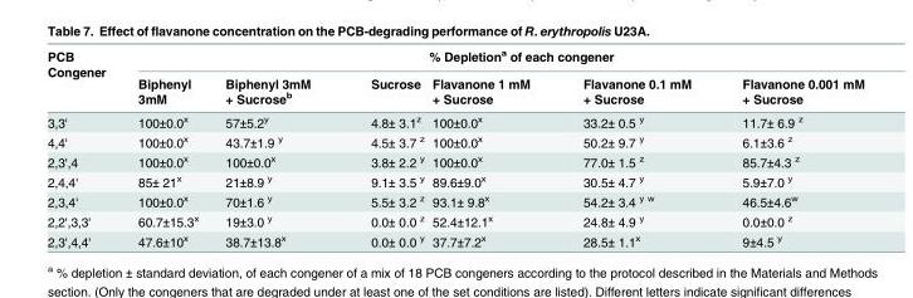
<table><thead><tr><td rowspan="2">PCB Congener</td><td colspan="6">% Depletion<sup>a</sup> of each congener</td></tr><tr><td>Biphenyl 3mM</td><td>Biphenyl 3mM + Sucrose<sup>b</sup></td><td>Sucrose</td><td>Flavanone 1 mM + Sucrose</td><td>Flavanone 0.1 mM + Sucrose</td><td>Flavanone 0.001 mM + Sucrose</td></tr></thead><tbody><tr><td>3,3&#x27;</td><td>100±0.0<sup>x</sup></td><td>57±5.2<sup>y</sup></td><td>4.8± 3.1<sup>z</sup></td><td>100±0.0<sup>x</sup></td><td>33.2± 0.5 <sup>y</sup></td><td>11.7± 6.9 <sup>z</sup></td></tr><tr><td>4,4&#x27;</td><td>100±0.0<sup>x</sup></td><td>43.7±1.9 <sup>y</sup></td><td>4.5± 3.7 <sup>z</sup></td><td>100±0.0<sup>x</sup></td><td>50.2± 9.7 <sup>y</sup></td><td>6.1±3.6 <sup>z</sup></td></tr><tr><td>2,3&#x27;,4</td><td>100±0.0<sup>x</sup></td><td>100±0.0<sup>x</sup></td><td>3.8± 2.2 <sup>y</sup></td><td>100±0.0<sup>x</sup></td><td>77.0± 1.5 <sup>z</sup></td><td>85.7±4.3 <sup>z</sup></td></tr><tr><td>2,4,4&#x27;</td><td>85± 21<sup>x</sup></td><td>21±8.9 <sup>y</sup></td><td>9.1± 3.5 <sup>y</sup></td><td>89.6±9.0<sup>x</sup></td><td>30.5± 4.7 <sup>y</sup></td><td>5.9±7.0 <sup>y</sup></td></tr><tr><td>2,3,4&#x27;</td><td>100±0.0<sup>x</sup></td><td>70±1.6 <sup>y</sup></td><td>5.5± 3.2 <sup>z</sup></td><td>93.1± 9.8<sup>x</sup></td><td>54.2± 3.4 <sup>y w</sup></td><td>46.5±4.6<sup>w</sup></td></tr><tr><td>2,2&#x27;,3,3&#x27;</td><td>60.7±15.3<sup>x</sup></td><td>19±3.0 <sup>y</sup></td><td>0.0± 0.0 <sup>z</sup></td><td>52.4±12.1<sup>x</sup></td><td>24.8± 4.9 <sup>y</sup></td><td>0.0±0.0 <sup>z</sup></td></tr><tr><td>2,3&#x27;,4,4&#x27;</td><td>47.6±10<sup>x</sup></td><td>38.7±13.8<sup>x</sup></td><td>0.0± 0.0 <sup>y</sup></td><td>37.7±7.2<sup>x</sup></td><td>28.5± 1.1<sup>x</sup></td><td>9±4.5 <sup>y</sup></td></tr></tbody></table>